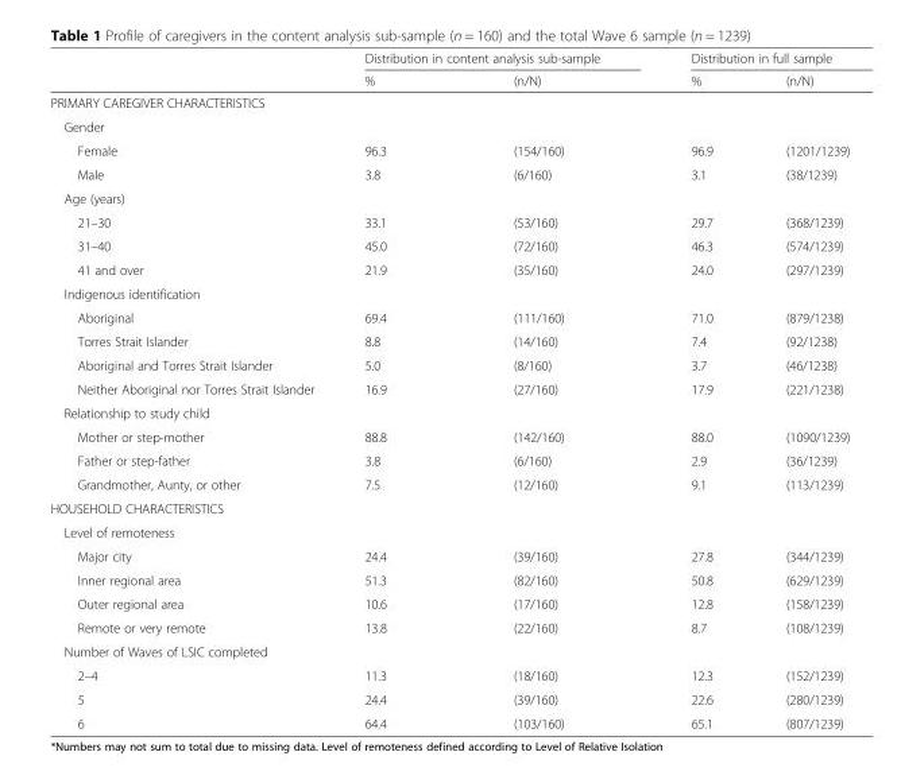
<table><thead><tr><td rowspan="2"></td><td colspan="2">Distribution in content analysis sub-sample</td><td colspan="2">Distribution in full sample</td></tr><tr><td>%</td><td>(n/N)</td><td>%</td><td>(n/N)</td></tr></thead><tbody><tr><td colspan="5">PRIMARY CAREGIVER CHARACTERISTICS</td></tr><tr><td colspan="5">Gender</td></tr><tr><td>Female</td><td>96.3</td><td>(154/160)</td><td>96.9</td><td>(1201/1239)</td></tr><tr><td>Male</td><td>3.8</td><td>(6/160)</td><td>3.1</td><td>(38/1239)</td></tr><tr><td colspan="5">Age (years)</td></tr><tr><td>21–30</td><td>33.1</td><td>(53/160)</td><td>29.7</td><td>(368/1239)</td></tr><tr><td>31–40</td><td>45.0</td><td>(72/160)</td><td>46.3</td><td>(574/1239)</td></tr><tr><td>41 and over</td><td>21.9</td><td>(35/160)</td><td>24.0</td><td>(297/1239)</td></tr><tr><td colspan="5">Indigenous identification</td></tr><tr><td>Aboriginal</td><td>69.4</td><td>(111/160)</td><td>71.0</td><td>(879/1238)</td></tr><tr><td>Torres Strait Islander</td><td>8.8</td><td>(14/160)</td><td>7.4</td><td>(92/1238)</td></tr><tr><td>Aboriginal and Torres Strait Islander</td><td>5.0</td><td>(8/160)</td><td>3.7</td><td>(46/1238)</td></tr><tr><td>Neither Aboriginal nor Torres Strait Islander</td><td>16.9</td><td>(27/160)</td><td>17.9</td><td>(221/1238)</td></tr><tr><td colspan="5">Relationship to study child</td></tr><tr><td>Mother or step-mother</td><td>88.8</td><td>(142/160)</td><td>88.0</td><td>(1090/1239)</td></tr><tr><td>Father or step-father</td><td>3.8</td><td>(6/160)</td><td>2.9</td><td>(36/1239)</td></tr><tr><td>Grandmother, Aunty, or other</td><td>7.5</td><td>(12/160)</td><td>9.1</td><td>(113/1239)</td></tr><tr><td colspan="5">HOUSEHOLD CHARACTERISTICS</td></tr><tr><td colspan="5">Level of remoteness</td></tr><tr><td>Major city</td><td>24.4</td><td>(39/160)</td><td>27.8</td><td>(344/1239)</td></tr><tr><td>Inner regional area</td><td>51.3</td><td>(82/160)</td><td>50.8</td><td>(629/1239)</td></tr><tr><td>Outer regional area</td><td>10.6</td><td>(17/160)</td><td>12.8</td><td>(158/1239)</td></tr><tr><td>Remote or very remote</td><td>13.8</td><td>(22/160)</td><td>8.7</td><td>(108/1239)</td></tr><tr><td colspan="5">Number of Waves of LSIC completed</td></tr><tr><td>2–4</td><td>11.3</td><td>(18/160)</td><td>12.3</td><td>(152/1239)</td></tr><tr><td>5</td><td>24.4</td><td>(39/160)</td><td>22.6</td><td>(280/1239)</td></tr><tr><td>6</td><td>64.4</td><td>(103/160)</td><td>65.1</td><td>(807/1239)</td></tr></tbody></table>